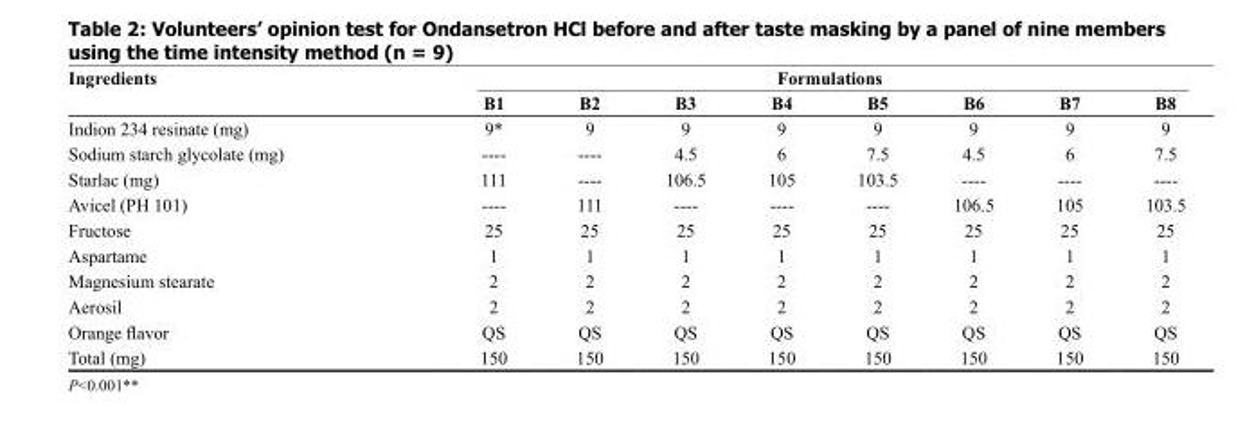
<table><thead><tr><td rowspan="2">Ingredients</td><td colspan="8">Formulations</td></tr><tr><td>B1</td><td>B2</td><td>B3</td><td>B4</td><td>B5</td><td>B6</td><td>B7</td><td>B8</td></tr></thead><tbody><tr><td>Indion 234 resinate (mg)</td><td>9*</td><td>9</td><td>9</td><td>9</td><td>9</td><td>9</td><td>9</td><td>9</td></tr><tr><td>Sodium starch glycolate (mg)</td><td>----</td><td>----</td><td>4.5</td><td>6</td><td>7.5</td><td>4.5</td><td>6</td><td>7.5</td></tr><tr><td>Starlac (mg)</td><td>111</td><td>----</td><td>106.5</td><td>105</td><td>103.5</td><td>----</td><td>----</td><td>----</td></tr><tr><td>Avicel (PH 101)</td><td>----</td><td>111</td><td>----</td><td>----</td><td>----</td><td>106.5</td><td>105</td><td>103.5</td></tr><tr><td>Fructose</td><td>25</td><td>25</td><td>25</td><td>25</td><td>25</td><td>25</td><td>25</td><td>25</td></tr><tr><td>Aspartame</td><td>1</td><td>1</td><td>1</td><td>1</td><td>1</td><td>1</td><td>1</td><td>1</td></tr><tr><td>Magnesium stearate</td><td>2</td><td>2</td><td>2</td><td>2</td><td>2</td><td>2</td><td>2</td><td>2</td></tr><tr><td>Aerosil</td><td>2</td><td>2</td><td>2</td><td>2</td><td>2</td><td>2</td><td>2</td><td>2</td></tr><tr><td>Orange flavor</td><td>QS</td><td>QS</td><td>QS</td><td>QS</td><td>QS</td><td>QS</td><td>QS</td><td>QS</td></tr><tr><td>Total (mg)</td><td>150</td><td>150</td><td>150</td><td>150</td><td>150</td><td>150</td><td>150</td><td>150</td></tr></tbody></table>